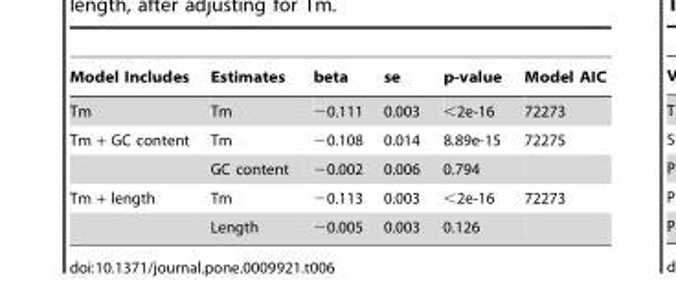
<table><thead><tr><td>Model Includes</td><td>Estimates</td><td>beta</td><td>se</td><td>p-value</td><td>Model AIC</td></tr></thead><tbody><tr><td>Tm</td><td>Tm</td><td>−0.111</td><td>0.003</td><td>&lt;2e-16</td><td>72273</td></tr><tr><td rowspan="2">Tm + GC content</td><td>Tm</td><td>−0.108</td><td>0.014</td><td>8.89e-15</td><td>72275</td></tr><tr><td>GC content</td><td>−0.002</td><td>0.006</td><td>0.794</td><td></td></tr><tr><td rowspan="2">Tm + length</td><td>Tm</td><td>−0.113</td><td>0.003</td><td>&lt;2e-16</td><td>72273</td></tr><tr><td>Length</td><td>−0.005</td><td>0.003</td><td>0.126</td><td></td></tr></tbody></table>